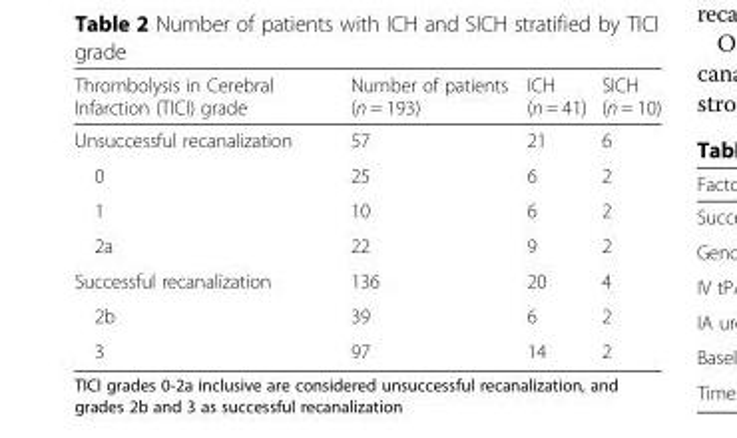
<table><thead><tr><td>Thrombolysis in Cerebral Infarction (TICI) grade</td><td>Number of patients (n = 193)</td><td>ICH (n = 41)</td><td>SICH (n = 10)</td></tr></thead><tbody><tr><td>Unsuccessful recanalization</td><td>57</td><td>21</td><td>6</td></tr><tr><td>0</td><td>25</td><td>6</td><td>2</td></tr><tr><td>1</td><td>10</td><td>6</td><td>2</td></tr><tr><td>2a</td><td>22</td><td>9</td><td>2</td></tr><tr><td>Successful recanalization</td><td>136</td><td>20</td><td>4</td></tr><tr><td>2b</td><td>39</td><td>6</td><td>2</td></tr><tr><td>3</td><td>97</td><td>14</td><td>2</td></tr></tbody></table>